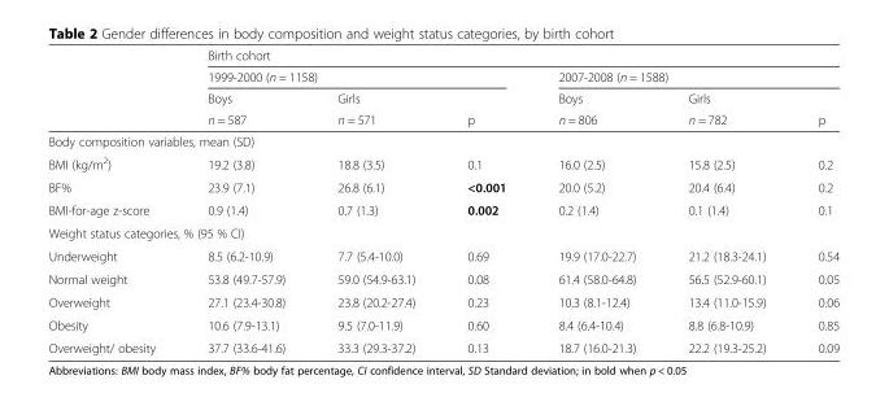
<table><thead><tr><td rowspan="4"></td><td colspan="6">Birth cohort</td></tr><tr><td colspan="3">1999-2000 (n = 1158)</td><td colspan="3">2007-2008 (n = 1588)</td></tr><tr><td rowspan="2">Boys n = 587</td><td rowspan="2">Girls n = 571</td><td rowspan="2">p</td><td rowspan="2">Boys n = 806</td><td rowspan="2">Girls n = 782</td><td rowspan="2">p</td></tr><tr></tr></thead><tbody><tr><td colspan="7">Body composition variables, mean (SD)</td></tr><tr><td>BMI (kg/m<sup>2</sup>)</td><td>19.2 (3.8)</td><td>18.8 (3.5)</td><td>0.1</td><td>16.0 (2.5)</td><td>15.8 (2.5)</td><td>0.2</td></tr><tr><td>BF%</td><td>23.9 (7.1)</td><td>26.8 (6.1)</td><td>&lt;0.001</td><td>20.0 (5.2)</td><td>20.4 (6.4)</td><td>0.2</td></tr><tr><td>BMI-for-age z-score</td><td>0.9 (1.4)</td><td>0.7 (1.3)</td><td>0.002</td><td>0.2 (1.4)</td><td>0.1 (1.4)</td><td>0.1</td></tr><tr><td colspan="7">Weight status categories, % (95 % CI)</td></tr><tr><td>Underweight</td><td>8.5 (6.2-10.9)</td><td>7.7 (5.4-10.0)</td><td>0.69</td><td>19.9 (17.0-22.7)</td><td>21.2 (18.3-24.1)</td><td>0.54</td></tr><tr><td>Normal weight</td><td>53.8 (49.7-57.9)</td><td>59.0 (54.9-63.1)</td><td>0.08</td><td>61.4 (58.0-64.8)</td><td>56.5 (52.9-60.1)</td><td>0.05</td></tr><tr><td>Overweight</td><td>27.1 (23.4-30.8)</td><td>23.8 (20.2-27.4)</td><td>0.23</td><td>10.3 (8.1-12.4)</td><td>13.4 (11.0-15.9)</td><td>0.06</td></tr><tr><td>Obesity</td><td>10.6 (7.9-13.1)</td><td>9.5 (7.0-11.9)</td><td>0.60</td><td>8.4 (6.4-10.4)</td><td>8.8 (6.8-10.9)</td><td>0.85</td></tr><tr><td>Overweight/ obesity</td><td>37.7 (33.6-41.6)</td><td>33.3 (29.3-37.2)</td><td>0.13</td><td>18.7 (16.0-21.3)</td><td>22.2 (19.3-25.2)</td><td>0.09</td></tr></tbody></table>